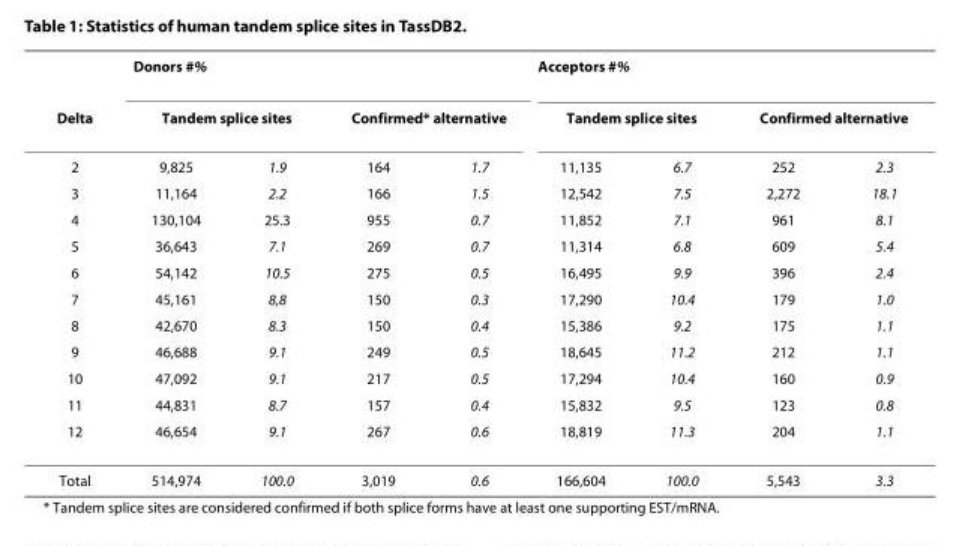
<table><thead><tr><td rowspan="13">Delta 2 3 4 5 6 7 8 9 10 11 12</td><td colspan="4">Donors #%</td><td colspan="4">Acceptors #%</td></tr><tr><td colspan="2">Tandem splice sites</td><td colspan="2">Confirmed* alternative</td><td colspan="2">Tandem splice sites</td><td colspan="2">Confirmed alternative</td></tr><tr><td rowspan="11">9,825 11,164 130,104 36,643 54,142 45,161 42,670 46,688 47,092 44,831 46,654</td><td rowspan="11">1.9 2.2 25.3 7.1 10.5 8,8 8.3 9.1 9.1 8.7 9.1</td><td rowspan="11">164 166 955 269 275 150 150 249 217 157 267</td><td rowspan="11">1.7 1.5 0.7 0.7 0.5 0.3 0.4 0.5 0.5 0.4 0.6</td><td rowspan="11">11,135 12,542 11,852 11,314 16,495 17,290 15,386 18,645 17,294 15,832 18,819</td><td rowspan="11">6.7 7.5 7.1 6.8 9.9 10.4 9.2 11.2 10.4 9.5 11.3</td><td rowspan="11">252 2,272 961 609 396 179 175 212 160 123 204</td><td rowspan="11">2.3 18.1 8.1 5.4 2.4 1.0 1.1 1.1 0.9 0.8 1.1</td></tr><tr></tr><tr></tr><tr></tr><tr></tr><tr></tr><tr></tr><tr></tr><tr></tr><tr></tr><tr></tr></thead><tbody><tr><td>Total</td><td>514,974</td><td>100.0</td><td>3,019</td><td>0.6</td><td>166,604</td><td>100.0</td><td>5,543</td><td>3.3</td></tr></tbody></table>